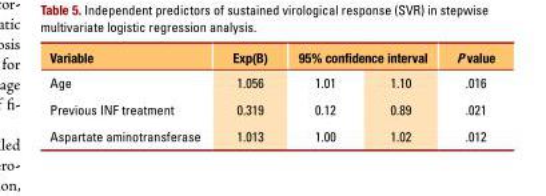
<table><thead><tr><td rowspan="2">Variable Age</td><td rowspan="2">Exp(B) 1.0</td><td colspan="2">95% confidence interval</td><td rowspan="2">P value .01</td></tr><tr><td>1.01</td><td>1.10</td></tr></thead><tbody><tr><td>Previous INF treatment</td><td>0.319</td><td>0.12</td><td>0.89</td><td>.021</td></tr><tr><td>Aspartate aminotransferase</td><td>1.013</td><td>1.00</td><td>1.02</td><td>.012</td></tr></tbody></table>